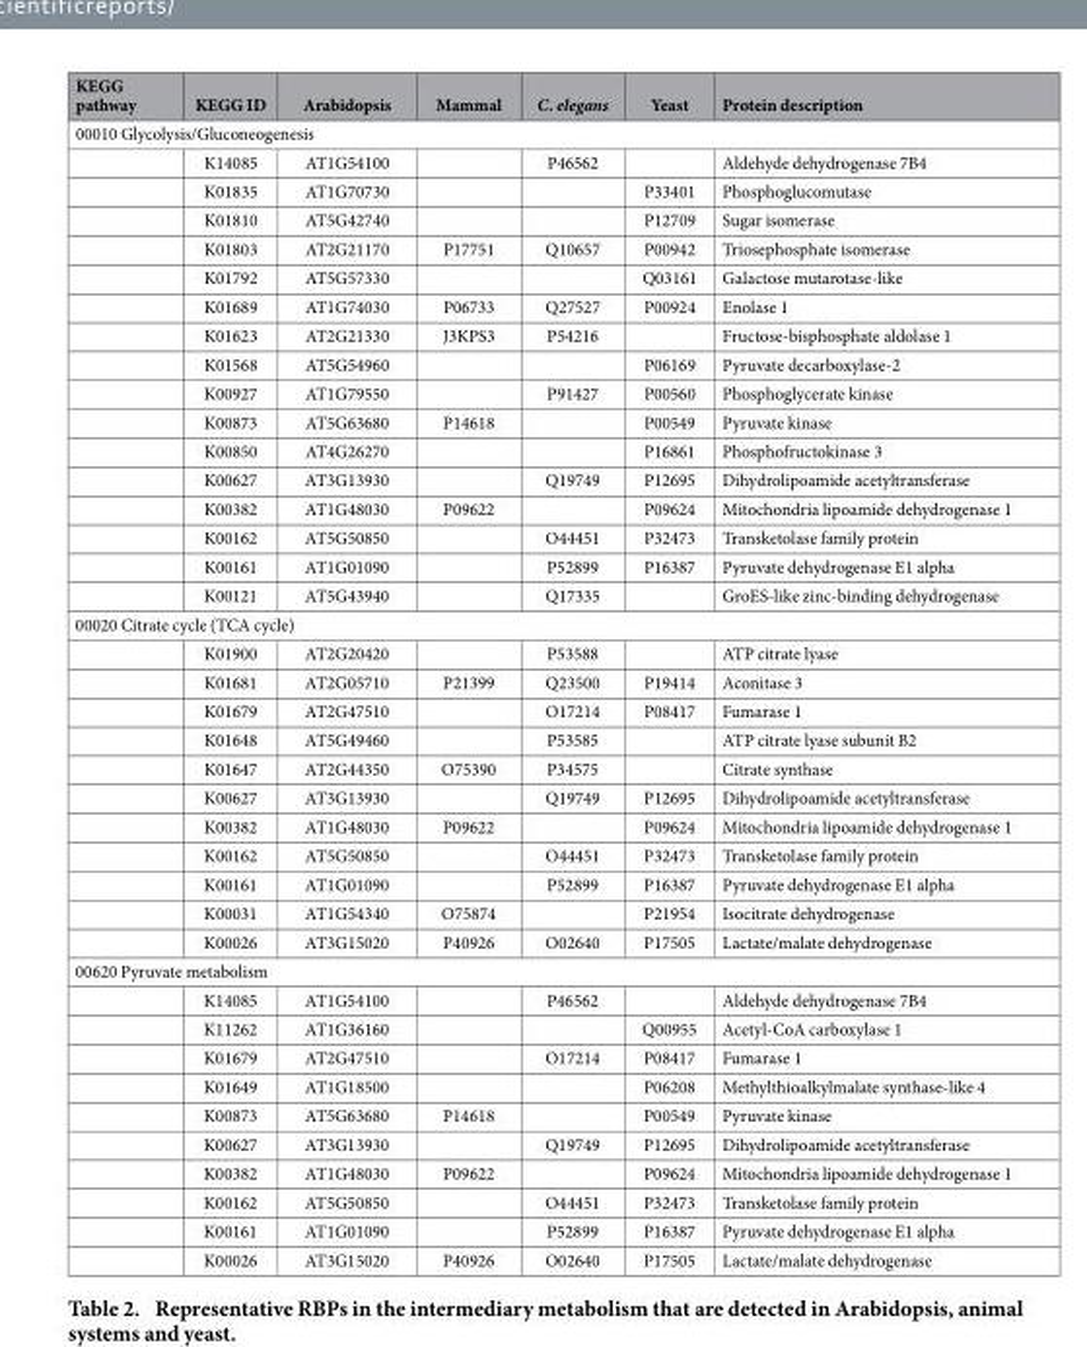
<table><thead><tr><td>KEGG pathway</td><td>KEGG ID</td><td>Arabidopsis</td><td>Mammal</td><td>C. elegans</td><td>Yeast</td><td>Protein description</td></tr></thead><tbody><tr><td colspan="7">00010 Glycolysis/Gluconeogenesis</td></tr><tr><td></td><td>K14085</td><td>AT1G54100</td><td></td><td>P46562</td><td></td><td>Aldehyde dehydrogenase 7B4</td></tr><tr><td></td><td>K01835</td><td>AT1G70730</td><td></td><td></td><td>P33401</td><td>Phosphoglucomutase</td></tr><tr><td></td><td>K01810</td><td>AT5G42740</td><td></td><td></td><td>P12709</td><td>Sugar isomerase</td></tr><tr><td></td><td>K01803</td><td>AT2G21170</td><td>P17751</td><td>Q10657</td><td>P00942</td><td>Triosephosphate isomerase</td></tr><tr><td></td><td>K01792</td><td>AT5G57330</td><td></td><td></td><td>Q03161</td><td>Galactose mutarotase-like</td></tr><tr><td></td><td>K01689</td><td>AT1G74030</td><td>P06733</td><td>Q27527</td><td>P00924</td><td>Enolase 1</td></tr><tr><td></td><td>K01623</td><td>AT2G21330</td><td>J3KPS3</td><td>P54216</td><td></td><td>Fructose-bisphosphate aldolase 1</td></tr><tr><td></td><td>K01568</td><td>AT5G54960</td><td></td><td></td><td>P06169</td><td>Pyruvate decarboxylase-2</td></tr><tr><td></td><td>K00927</td><td>AT1G79550</td><td></td><td>P91427</td><td>P00560</td><td>Phosphoglycerate kinase</td></tr><tr><td></td><td>K00873</td><td>AT5G63680</td><td>P14618</td><td></td><td>P00549</td><td>Pyruvate kinase</td></tr><tr><td></td><td>K00850</td><td>AT4G26270</td><td></td><td></td><td>P16861</td><td>Phosphofructokinase 3</td></tr><tr><td></td><td>K00627</td><td>AT3G13930</td><td></td><td>Q19749</td><td>P12695</td><td>Dihydrolipoamide acetyltransferase</td></tr><tr><td></td><td>K00382</td><td>AT1G48030</td><td>P09622</td><td></td><td>P09624</td><td>Mitochondria lipoamide dehydrogenase 1</td></tr><tr><td></td><td>K00162</td><td>AT5G50850</td><td></td><td>O44451</td><td>P32473</td><td>Transketolase family protein</td></tr><tr><td></td><td>K00161</td><td>AT1G01090</td><td></td><td>P52899</td><td>P16387</td><td>Pyruvate dehydrogenase E1 alpha</td></tr><tr><td></td><td>K00121</td><td>AT5G43940</td><td></td><td>Q17335</td><td></td><td>GroES-like zinc-binding dehydrogenase</td></tr><tr><td colspan="7">00020 Citrate cycle (TCA cycle)</td></tr><tr><td></td><td>K01900</td><td>AT2G20420</td><td></td><td>P53588</td><td></td><td>ATP citrate lyase</td></tr><tr><td></td><td>K01681</td><td>AT2G05710</td><td>P21399</td><td>Q23500</td><td>P19414</td><td>Aconitase 3</td></tr><tr><td></td><td>K01679</td><td>AT2G47510</td><td></td><td>O17214</td><td>P08417</td><td>Fumarase 1</td></tr><tr><td></td><td>K01648</td><td>AT5G49460</td><td></td><td>P53585</td><td></td><td>ATP citrate lyase subunit B2</td></tr><tr><td></td><td>K01647</td><td>AT2G44350</td><td>O75390</td><td>P34575</td><td></td><td>Citrate synthase</td></tr><tr><td></td><td>K00627</td><td>AT3G13930</td><td></td><td>Q19749</td><td>P12695</td><td>Dihydrolipoamide acetyltransferase</td></tr><tr><td></td><td>K00382</td><td>AT1G48030</td><td>P09622</td><td></td><td>P09624</td><td>Mitochondria lipoamide dehydrogenase 1</td></tr><tr><td></td><td>K00162</td><td>AT5G50850</td><td></td><td>O44451</td><td>P32473</td><td>Transketolase family protein</td></tr><tr><td></td><td>K00161</td><td>AT1G01090</td><td></td><td>P52899</td><td>P16387</td><td>Pyruvate dehydrogenase E1 alpha</td></tr><tr><td></td><td>K00031</td><td>AT1G54340</td><td>O75874</td><td></td><td>P21954</td><td>Isocitrate dehydrogenase</td></tr><tr><td></td><td>K00026</td><td>AT3G15020</td><td>P40926</td><td>O02640</td><td>P17505</td><td>Lactate/malate dehydrogenase</td></tr><tr><td colspan="7">00620 Pyruvate metabolism</td></tr><tr><td></td><td>K14085</td><td>AT1G54100</td><td></td><td>P46562</td><td></td><td>Aldehyde dehydrogenase 7B4</td></tr><tr><td></td><td>K11262</td><td>AT1G36160</td><td></td><td></td><td>Q00955</td><td>Acetyl-CoA carboxylase 1</td></tr><tr><td></td><td>K01679</td><td>AT2G47510</td><td></td><td>O17214</td><td>P08417</td><td>Fumarase 1</td></tr><tr><td></td><td>K01649</td><td>AT1G18500</td><td></td><td></td><td>P06208</td><td>Methylthioalkylmalate synthase-like 4</td></tr><tr><td></td><td>K00873</td><td>AT5G63680</td><td>P14618</td><td></td><td>P00549</td><td>Pyruvate kinase</td></tr><tr><td></td><td>K00627</td><td>AT3G13930</td><td></td><td>Q19749</td><td>P12695</td><td>Dihydrolipoamide acetyltransferase</td></tr><tr><td></td><td>K00382</td><td>AT1G48030</td><td>P09622</td><td></td><td>P09624</td><td>Mitochondria lipoamide dehydrogenase 1</td></tr><tr><td></td><td>K00162</td><td>AT5G50850</td><td></td><td>O44451</td><td>P32473</td><td>Transketolase family protein</td></tr><tr><td></td><td>K00161</td><td>AT1G01090</td><td></td><td>P52899</td><td>P16387</td><td>Pyruvate dehydrogenase E1 alpha</td></tr><tr><td></td><td>K00026</td><td>AT3G15020</td><td>P40926</td><td>O02640</td><td>P17505</td><td>Lactate/malate dehydrogenase</td></tr></tbody></table>